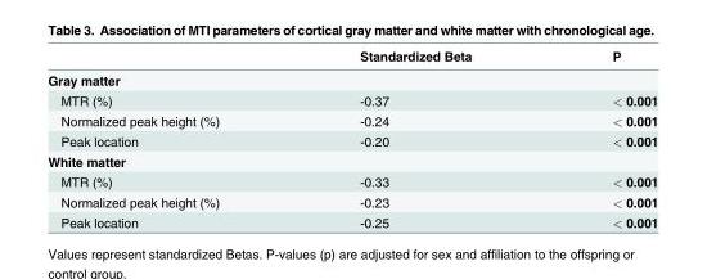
<table><thead><tr><td></td><td>Standardized Beta</td><td>P</td></tr></thead><tbody><tr><td colspan="3">Gray matter</td></tr><tr><td>MTR (%)</td><td>-0.37</td><td>&lt; 0.001</td></tr><tr><td>Normalized peak height (%)</td><td>-0.24</td><td>&lt; 0.001</td></tr><tr><td>Peak location</td><td>-0.20</td><td>&lt; 0.001</td></tr><tr><td colspan="3">White matter</td></tr><tr><td>MTR (%)</td><td>-0.33</td><td>&lt; 0.001</td></tr><tr><td>Normalized peak height (%)</td><td>-0.23</td><td>&lt; 0.001</td></tr><tr><td>Peak location</td><td>-0.25</td><td>&lt; 0.001</td></tr></tbody></table>